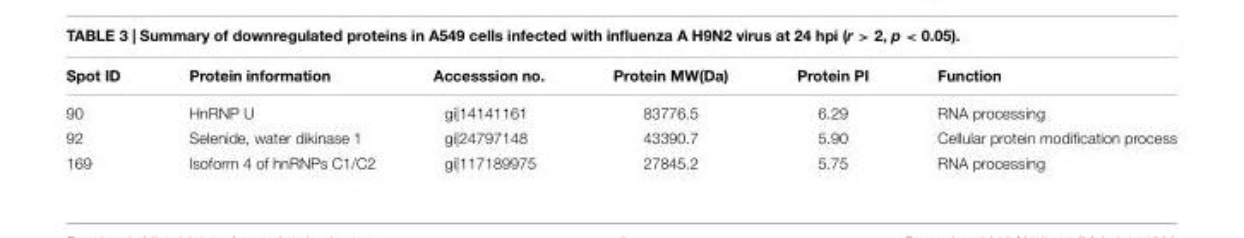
<table><thead><tr><td>Spot ID</td><td>Protein information</td><td>Accesssion no.</td><td>Protein MW(Da)</td><td>Protein PI</td><td>Function</td></tr></thead><tbody><tr><td>90</td><td>HnRNP U</td><td>gi|14141161</td><td>83776.5</td><td>6.29</td><td>RNA processing</td></tr><tr><td>92</td><td>Selenide, water dikinase 1</td><td>gi|24797148</td><td>43390.7</td><td>5.90</td><td>Cellular protein modification process</td></tr><tr><td>169</td><td>Isoform 4 of hnRNPs C1/C2</td><td>gi|117189975</td><td>27845.2</td><td>5.75</td><td>RNA processing</td></tr></tbody></table>